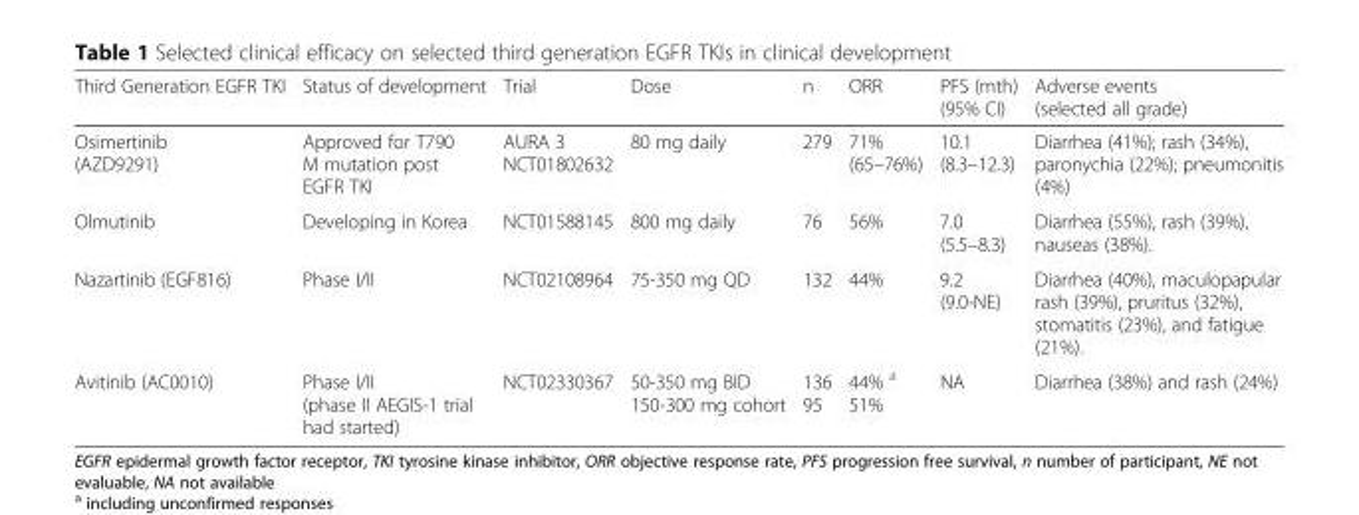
<table><thead><tr><td>Third Generation EGFR TKI</td><td>Status of development</td><td>Trial</td><td>Dose</td><td>n</td><td>ORR</td><td>PFS (mth) (95% CI)</td><td>Adverse events (selected all grade)</td></tr></thead><tbody><tr><td>Osimertinib (AZD9291)</td><td>Approved for T790 M mutation post EGFR TKI</td><td>AURA 3 NCT01802632</td><td>80 mg daily</td><td>279</td><td>71% (65–76%)</td><td>10.1 (8.3–12.3)</td><td>Diarrhea (41%); rash (34%), paronychia (22%); pneumonitis (4%)</td></tr><tr><td>Olmutinib</td><td>Developing in Korea</td><td>NCT01588145</td><td>800 mg daily</td><td>76</td><td>56%</td><td>7.0 (5.5–8.3)</td><td>Diarrhea (55%), rash (39%), nauseas (38%).</td></tr><tr><td>Nazartinib (EGF816)</td><td>Phase I/II</td><td>NCT02108964</td><td>75-350 mg QD</td><td>132</td><td>44%</td><td>9.2 (9.0-NE)</td><td>Diarrhea (40%), maculopapular rash (39%), pruritus (32%), stomatitis (23%), and fatigue (21%).</td></tr><tr><td>Avitinib (AC0010)</td><td>Phase I/II (phase II AEGIS-1 trial had started)</td><td>NCT02330367</td><td>50-350 mg BID 150-300 mg cohort</td><td>136 95</td><td>44% <sup>a</sup> 51%</td><td>NA</td><td>Diarrhea (38%) and rash (24%)</td></tr></tbody></table>